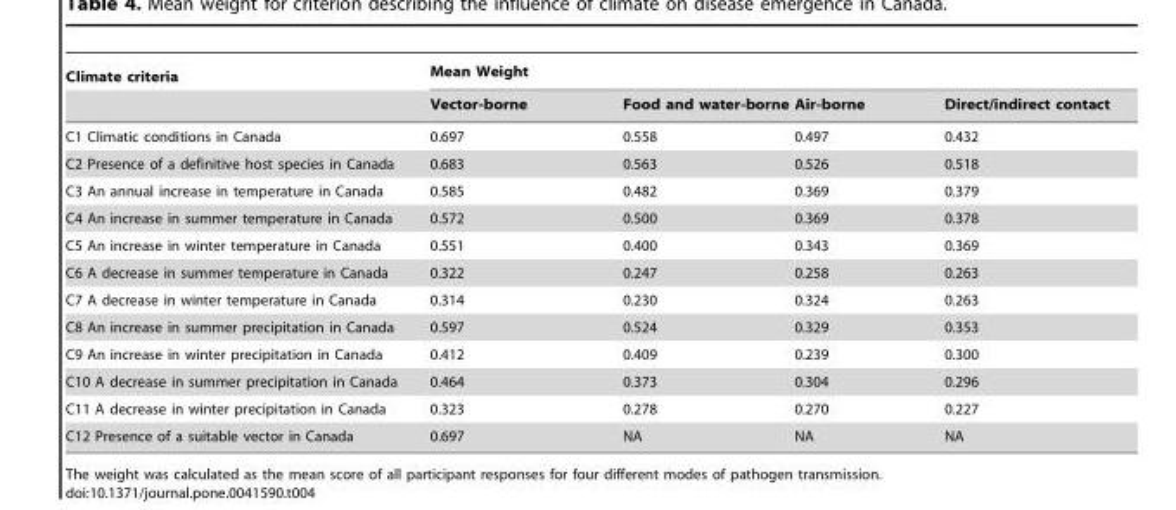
<table><thead><tr><td rowspan="2">Climate criteria</td><td colspan="4">Mean Weight</td></tr><tr><td>Vector-borne</td><td>Food and water-borne</td><td>Air-borne</td><td>Direct/indirect contact</td></tr></thead><tbody><tr><td>C1 Climatic conditions in Canada</td><td>0.697</td><td>0.558</td><td>0.497</td><td>0.432</td></tr><tr><td>C2 Presence of a definitive host species in Canada</td><td>0.683</td><td>0.563</td><td>0.526</td><td>0.518</td></tr><tr><td>C3 An annual increase in temperature in Canada</td><td>0.585</td><td>0.482</td><td>0.369</td><td>0.379</td></tr><tr><td>C4 An increase in summer temperature in Canada</td><td>0.572</td><td>0.500</td><td>0.369</td><td>0.378</td></tr><tr><td>C5 An increase in winter temperature in Canada</td><td>0.551</td><td>0.400</td><td>0.343</td><td>0.369</td></tr><tr><td>C6 A decrease in summer temperature in Canada</td><td>0.322</td><td>0.247</td><td>0.258</td><td>0.263</td></tr><tr><td>C7 A decrease in winter temperature in Canada</td><td>0.314</td><td>0.230</td><td>0.324</td><td>0.263</td></tr><tr><td>C8 An increase in summer precipitation in Canada</td><td>0.597</td><td>0.524</td><td>0.329</td><td>0.353</td></tr><tr><td>C9 An increase in winter precipitation in Canada</td><td>0.412</td><td>0.409</td><td>0.239</td><td>0.300</td></tr><tr><td>C10 A decrease in summer precipitation in Canada</td><td>0.464</td><td>0.373</td><td>0.304</td><td>0.296</td></tr><tr><td>C11 A decrease in winter precipitation in Canada</td><td>0.323</td><td>0.278</td><td>0.270</td><td>0.227</td></tr><tr><td>C12 Presence of a suitable vector in Canada</td><td>0.697</td><td>NA</td><td>NA</td><td>NA</td></tr></tbody></table>